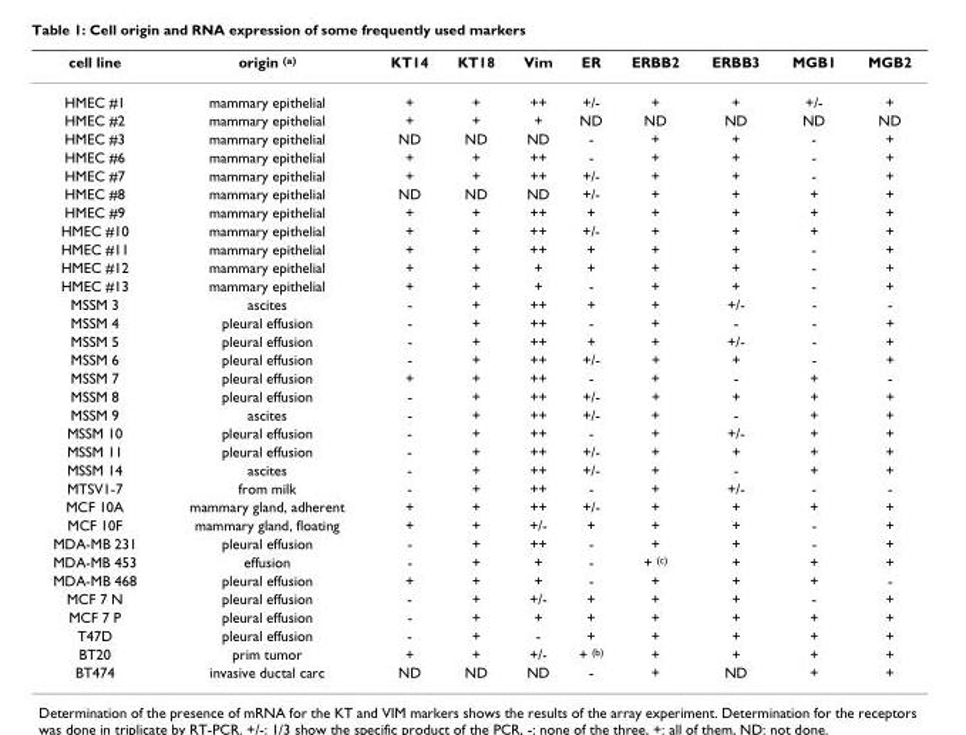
<table><thead><tr><td>cell line</td><td>origin (a)</td><td>KT14</td><td>KT18</td><td>Vim</td><td>ER</td><td>ERBB2</td><td>ERBB3</td><td>MGB1</td><td>MGB2</td></tr></thead><tbody><tr><td>HMEC #1</td><td>mammary epithelial</td><td>+</td><td>+</td><td>++</td><td>+/-</td><td>+</td><td>+</td><td>+/-</td><td>+</td></tr><tr><td>HMEC #2</td><td>mammary epithelial</td><td>+</td><td>+</td><td>+</td><td>ND</td><td>ND</td><td>ND</td><td>ND</td><td>ND</td></tr><tr><td>HMEC #3</td><td>mammary epithelial</td><td>ND</td><td>ND</td><td>ND</td><td>-</td><td>+</td><td>+</td><td>-</td><td>+</td></tr><tr><td>HMEC #6</td><td>mammary epithelial</td><td>+</td><td>+</td><td>++</td><td>-</td><td>+</td><td>+</td><td>-</td><td>+</td></tr><tr><td>HMEC #7</td><td>mammary epithelial</td><td>+</td><td>+</td><td>++</td><td>+/-</td><td>+</td><td>+</td><td>-</td><td>+</td></tr><tr><td>HMEC #8</td><td>mammary epithelial</td><td>ND</td><td>ND</td><td>ND</td><td>+/-</td><td>+</td><td>+</td><td>+</td><td>+</td></tr><tr><td>HMEC #9</td><td>mammary epithelial</td><td>+</td><td>+</td><td>++</td><td>+</td><td>+</td><td>+</td><td>+</td><td>+</td></tr><tr><td>HMEC #10</td><td>mammary epithelial</td><td>+</td><td>+</td><td>++</td><td>+/-</td><td>+</td><td>+</td><td>+</td><td>+</td></tr><tr><td>HMEC #11</td><td>mammary epithelial</td><td>+</td><td>+</td><td>++</td><td>+</td><td>+</td><td>+</td><td>-</td><td>+</td></tr><tr><td>HMEC #12</td><td>mammary epithelial</td><td>+</td><td>+</td><td>+</td><td>+</td><td>+</td><td>+</td><td>-</td><td>+</td></tr><tr><td>HMEC #13</td><td>mammary epithelial</td><td>+</td><td>+</td><td>+</td><td>-</td><td>+</td><td>+</td><td>-</td><td>+</td></tr><tr><td>MSSM 3</td><td>ascites</td><td>-</td><td>+</td><td>++</td><td>+</td><td>+</td><td>+/-</td><td>-</td><td>-</td></tr><tr><td>MSSM 4</td><td>pleural effusion</td><td>-</td><td>+</td><td>++</td><td>-</td><td>+</td><td>-</td><td>-</td><td>+</td></tr><tr><td>MSSM 5</td><td>pleural effusion</td><td>-</td><td>+</td><td>++</td><td>+</td><td>+</td><td>+/-</td><td>-</td><td>+</td></tr><tr><td>MSSM 6</td><td>pleural effusion</td><td>-</td><td>+</td><td>++</td><td>+/-</td><td>+</td><td>+</td><td>-</td><td>+</td></tr><tr><td>MSSM 7</td><td>pleural effusion</td><td>+</td><td>+</td><td>++</td><td>-</td><td>+</td><td>-</td><td>+</td><td>-</td></tr><tr><td>MSSM 8</td><td>pleural effusion</td><td>-</td><td>+</td><td>++</td><td>+/-</td><td>+</td><td>+</td><td>+</td><td>+</td></tr><tr><td>MSSM 9</td><td>ascites</td><td>-</td><td>+</td><td>++</td><td>+/-</td><td>+</td><td>-</td><td>+</td><td>+</td></tr><tr><td>MSSM 10</td><td>pleural effusion</td><td>-</td><td>+</td><td>++</td><td>-</td><td>+</td><td>+/-</td><td>+</td><td>+</td></tr><tr><td>MSSM 11</td><td>pleural effusion</td><td>-</td><td>+</td><td>++</td><td>+/-</td><td>+</td><td>+</td><td>+</td><td>+</td></tr><tr><td>MSSM 14</td><td>ascites</td><td>-</td><td>+</td><td>++</td><td>+/-</td><td>+</td><td>-</td><td>+</td><td>+</td></tr><tr><td>MTSV1-7</td><td>from milk</td><td>-</td><td>+</td><td>++</td><td>-</td><td>+</td><td>+/-</td><td>-</td><td>-</td></tr><tr><td>MCF 10A</td><td>mammary gland, adherent</td><td>+</td><td>+</td><td>++</td><td>+/-</td><td>+</td><td>+</td><td>+</td><td>+</td></tr><tr><td>MCF 10F</td><td>mammary gland, floating</td><td>+</td><td>+</td><td>+/-</td><td>+</td><td>+</td><td>+</td><td>-</td><td>+</td></tr><tr><td>MDA-MB 231</td><td>pleural effusion</td><td>-</td><td>+</td><td>++</td><td>-</td><td>+</td><td>+</td><td>-</td><td>+</td></tr><tr><td>MDA-MB 453</td><td>effusion</td><td>-</td><td>+</td><td>+</td><td>-</td><td>+ (c)</td><td>+</td><td>+</td><td>+</td></tr><tr><td>MDA-MB 468</td><td>pleural effusion</td><td>+</td><td>+</td><td>+</td><td>-</td><td>+</td><td>+</td><td>+</td><td>-</td></tr><tr><td>MCF 7 N</td><td>pleural effusion</td><td>-</td><td>+</td><td>+/-</td><td>+</td><td>+</td><td>+</td><td>-</td><td>+</td></tr><tr><td>MCF 7 P</td><td>pleural effusion</td><td>-</td><td>+</td><td>+</td><td>+</td><td>+</td><td>+</td><td>+</td><td>+</td></tr><tr><td>T47D</td><td>pleural effusion</td><td>-</td><td>+</td><td>-</td><td>+</td><td>+</td><td>+</td><td>+</td><td>+</td></tr><tr><td>BT20</td><td>prim tumor</td><td>+</td><td>+</td><td>+/-</td><td>+ (b)</td><td>+</td><td>+</td><td>+</td><td>+</td></tr><tr><td>BT474</td><td>invasive ductal carc</td><td>ND</td><td>ND</td><td>ND</td><td>-</td><td>+</td><td>ND</td><td>+</td><td>+</td></tr></tbody></table>